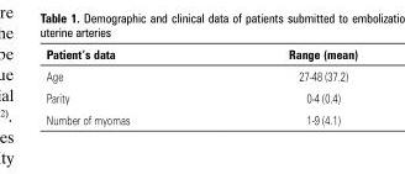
<table><thead><tr><td>Patient’s data</td><td>Range (mean)</td></tr></thead><tbody><tr><td>Age</td><td>27-48 (37.2)</td></tr><tr><td>Parity</td><td>0-4 (0.4)</td></tr><tr><td>Number of myomas</td><td>1-9 (4.1)</td></tr></tbody></table>